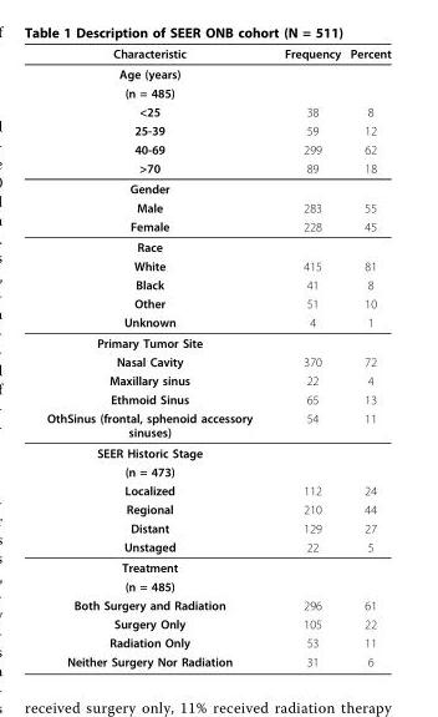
<table><thead><tr><td>Characteristic</td><td>Frequency</td><td>Percent</td></tr></thead><tbody><tr><td colspan="3">Age (years)</td></tr><tr><td colspan="3">(n = 485)</td></tr><tr><td>&lt;25</td><td>38</td><td>8</td></tr><tr><td>25-39</td><td>59</td><td>12</td></tr><tr><td>40-69</td><td>299</td><td>62</td></tr><tr><td>&gt;70</td><td>89</td><td>18</td></tr><tr><td colspan="3">Gender</td></tr><tr><td>Male</td><td>283</td><td>55</td></tr><tr><td>Female</td><td>228</td><td>45</td></tr><tr><td colspan="3">Race</td></tr><tr><td>White</td><td>415</td><td>81</td></tr><tr><td>Black</td><td>41</td><td>8</td></tr><tr><td>Other</td><td>51</td><td>10</td></tr><tr><td>Unknown</td><td>4</td><td>1</td></tr><tr><td colspan="3">Primary Tumor Site</td></tr><tr><td>Nasal Cavity</td><td>370</td><td>72</td></tr><tr><td>Maxillary sinus</td><td>22</td><td>4</td></tr><tr><td>Ethmoid Sinus</td><td>65</td><td>13</td></tr><tr><td>OthSinus (frontal, sphenoid accessory sinuses)</td><td>54</td><td>11</td></tr><tr><td colspan="3">SEER Historic Stage</td></tr><tr><td colspan="3">(n = 473)</td></tr><tr><td>Localized</td><td>112</td><td>24</td></tr><tr><td>Regional</td><td>210</td><td>44</td></tr><tr><td>Distant</td><td>129</td><td>27</td></tr><tr><td>Unstaged</td><td>22</td><td>5</td></tr><tr><td colspan="3">Treatment</td></tr><tr><td colspan="3">(n = 485)</td></tr><tr><td>Both Surgery and Radiation</td><td>296</td><td>61</td></tr><tr><td>Surgery Only</td><td>105</td><td>22</td></tr><tr><td>Radiation Only</td><td>53</td><td>11</td></tr><tr><td>Neither Surgery Nor Radiation</td><td>31</td><td>6</td></tr></tbody></table>